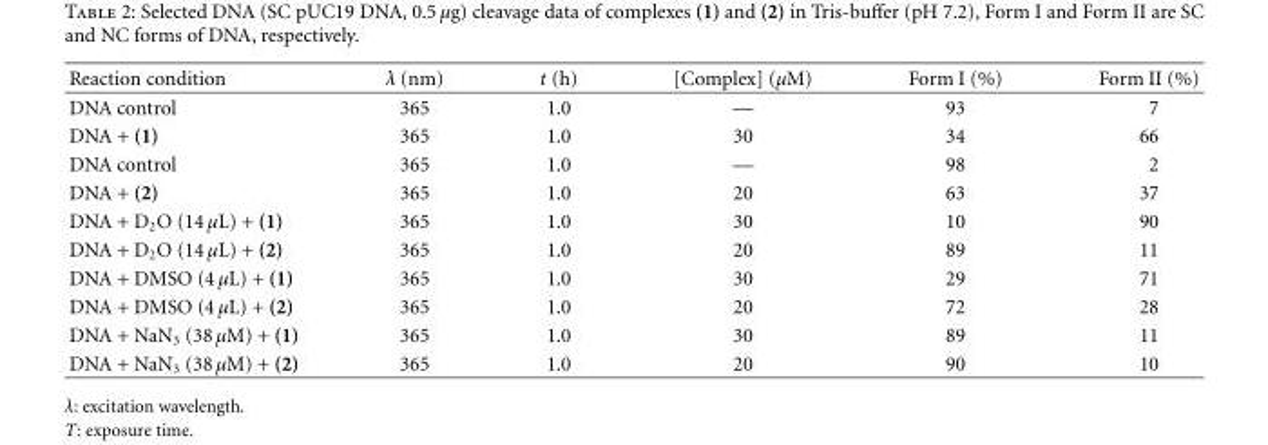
<table><tbody><tr><td>Reaction condition</td><td>λ (nm)</td><td>t (h)</td><td>[Complex] (μM)</td><td>Form I (%)</td><td>Form II (%)</td></tr><tr><td>DNA control</td><td>365</td><td>1.0</td><td>—</td><td>93</td><td>7</td></tr><tr><td>DNA + (1)</td><td>365</td><td>1.0</td><td>30</td><td>34</td><td>66</td></tr><tr><td>DNA control</td><td>365</td><td>1.0</td><td>—</td><td>98</td><td>2</td></tr><tr><td>DNA + (2)</td><td>365</td><td>1.0</td><td>20</td><td>63</td><td>37</td></tr><tr><td>DNA + D<sub>2</sub>O (14 μL) + (1)</td><td>365</td><td>1.0</td><td>30</td><td>10</td><td>90</td></tr><tr><td>DNA + D<sub>2</sub>O (14 μL) + (2)</td><td>365</td><td>1.0</td><td>20</td><td>89</td><td>11</td></tr><tr><td>DNA + DMSO (4 μL) + (1)</td><td>365</td><td>1.0</td><td>30</td><td>29</td><td>71</td></tr><tr><td>DNA + DMSO (4 μL) + (2)</td><td>365</td><td>1.0</td><td>20</td><td>72</td><td>28</td></tr><tr><td>DNA + NaN<sub>3</sub> (38 μM) + (1)</td><td>365</td><td>1.0</td><td>30</td><td>89</td><td>11</td></tr><tr><td>DNA + NaN<sub>3</sub> (38 μM) + (2)</td><td>365</td><td>1.0</td><td>20</td><td>90</td><td>10</td></tr></tbody></table>